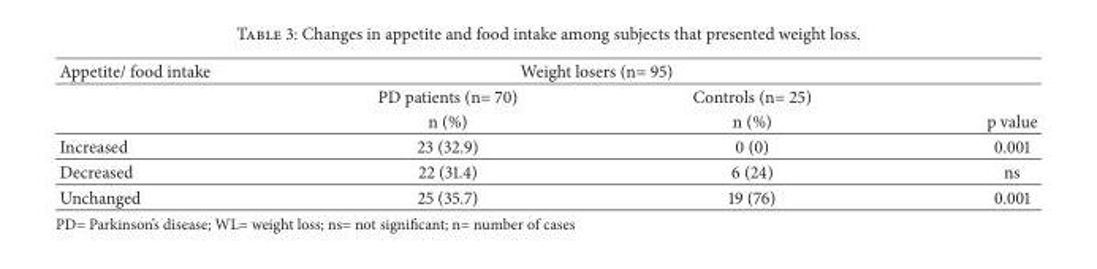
<table><thead><tr><td rowspan="2">Appetite/ food intake</td><td colspan="2">Weight losers (n= 95)</td><td rowspan="2"></td></tr><tr><td>PD patients (n= 70)</td><td>Controls (n= 25)</td></tr></thead><tbody><tr><td></td><td>n (%)</td><td>n (%)</td><td>p value</td></tr><tr><td>Increased</td><td>23 (32.9)</td><td>0 (0)</td><td>0.001</td></tr><tr><td>Decreased</td><td>22 (31.4)</td><td>6 (24)</td><td>ns</td></tr><tr><td>Unchanged</td><td>25 (35.7)</td><td>19 (76)</td><td>0.001</td></tr></tbody></table>